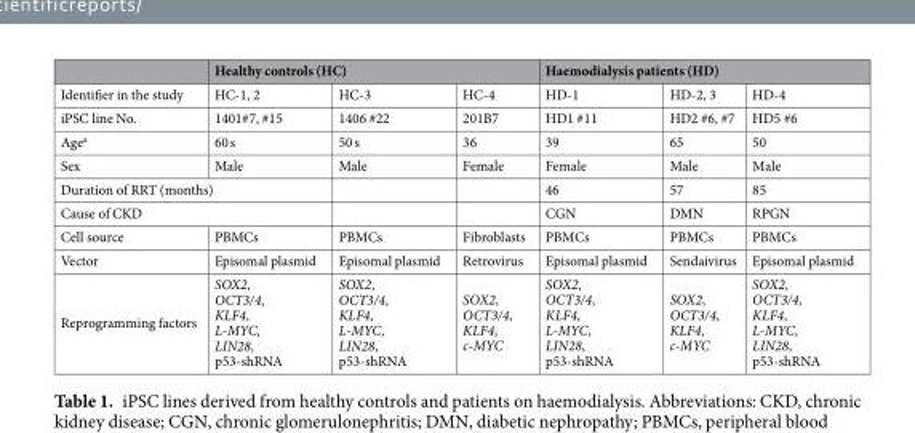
<table><thead><tr><td rowspan="2">Identifier in the study</td><td colspan="3">Healthy controls (HC)</td><td colspan="3">Haemodialysis patients (HD)</td></tr><tr><td>HC-1, 2</td><td>HC-3</td><td>HC-4</td><td>HD-1</td><td>HD-2, 3</td><td>HD-4</td></tr></thead><tbody><tr><td>iPSC line No.</td><td>1401#7, #15</td><td>1406 #22</td><td>201B7</td><td>HD1 #11</td><td>HD2 #6, #7</td><td>HD5 #6</td></tr><tr><td>Age<sup>a</sup></td><td>60 s</td><td>50 s</td><td>36</td><td>39</td><td>65</td><td>50</td></tr><tr><td>Sex</td><td>Male</td><td>Male</td><td>Female</td><td>Female</td><td>Male</td><td>Male</td></tr><tr><td colspan="2">Duration of RRT (months)</td><td></td><td></td><td>46</td><td>57</td><td>85</td></tr><tr><td colspan="2">Cause of CKD</td><td></td><td></td><td>CGN</td><td>DMN</td><td>RPGN</td></tr><tr><td>Cell source</td><td>PBMCs</td><td>PBMCs</td><td>Fibroblasts</td><td>PBMCs</td><td>PBMCs</td><td>PBMCs</td></tr><tr><td>Vector</td><td>Episomal plasmid</td><td>Episomal plasmid</td><td>Retrovirus</td><td>Episomal plasmid</td><td>Sendaivirus</td><td>Episomal plasmid</td></tr><tr><td>Reprogramming factors</td><td>SOX2, OCT3/4, KLF4, L-MYC, LIN28, p53-shRNA</td><td>SOX2, OCT3/4, KLF4, L-MYC, LIN28, p53-shRNA</td><td>SOX2, OCT3/4, KLF4, c-MYC</td><td>SOX2, OCT3/4, KLF4, L-MYC, LIN28, p53-shRNA</td><td>SOX2, OCT3/4, KLF4, c-MYC</td><td>SOX2, OCT3/4, KLF4, L-MYC, LIN28, p53-shRNA</td></tr></tbody></table>